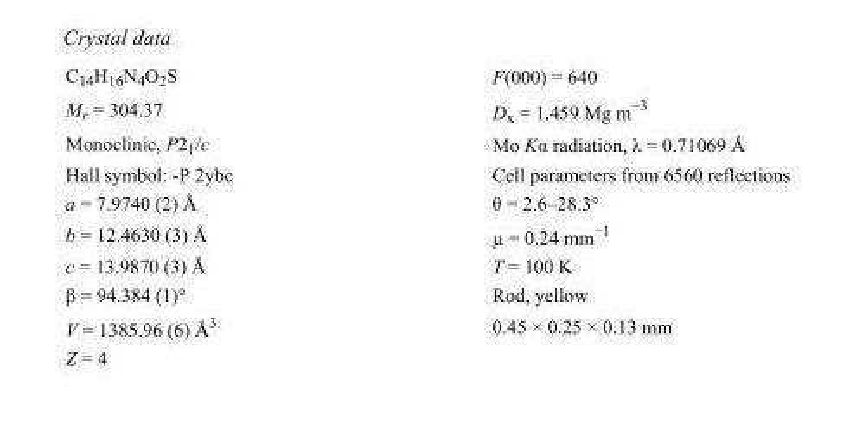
<table><tbody><tr><td>C<sub>14</sub>H<sub>16</sub>N<sub>4</sub>O<sub>2</sub>S</td><td>F(000) = 640</td></tr><tr><td>M<sub>r</sub> = 304.37</td><td>D<sub>x</sub> = 1.459 Mg m<sup>−3</sup></td></tr><tr><td>Monoclinic, P2<sub>1</sub>/c</td><td>Mo Kα radiation, λ = 0.71069 Å</td></tr><tr><td>Hall symbol: -P 2ybc</td><td>Cell parameters from 6560 reflections</td></tr><tr><td>a = 7.9740 (2) Å</td><td>θ = 2.6–28.3°</td></tr><tr><td>b = 12.4630 (3) Å</td><td>µ = 0.24 mm<sup>−1</sup></td></tr><tr><td>c = 13.9870 (3) Å</td><td>T = 100 K</td></tr><tr><td>β = 94.384 (1)°</td><td>Rod, yellow</td></tr><tr><td>V = 1385.96 (6) Å<sup>3</sup></td><td>0.45 × 0.25 × 0.13 mm</td></tr><tr><td>Z = 4</td><td></td></tr></tbody></table>